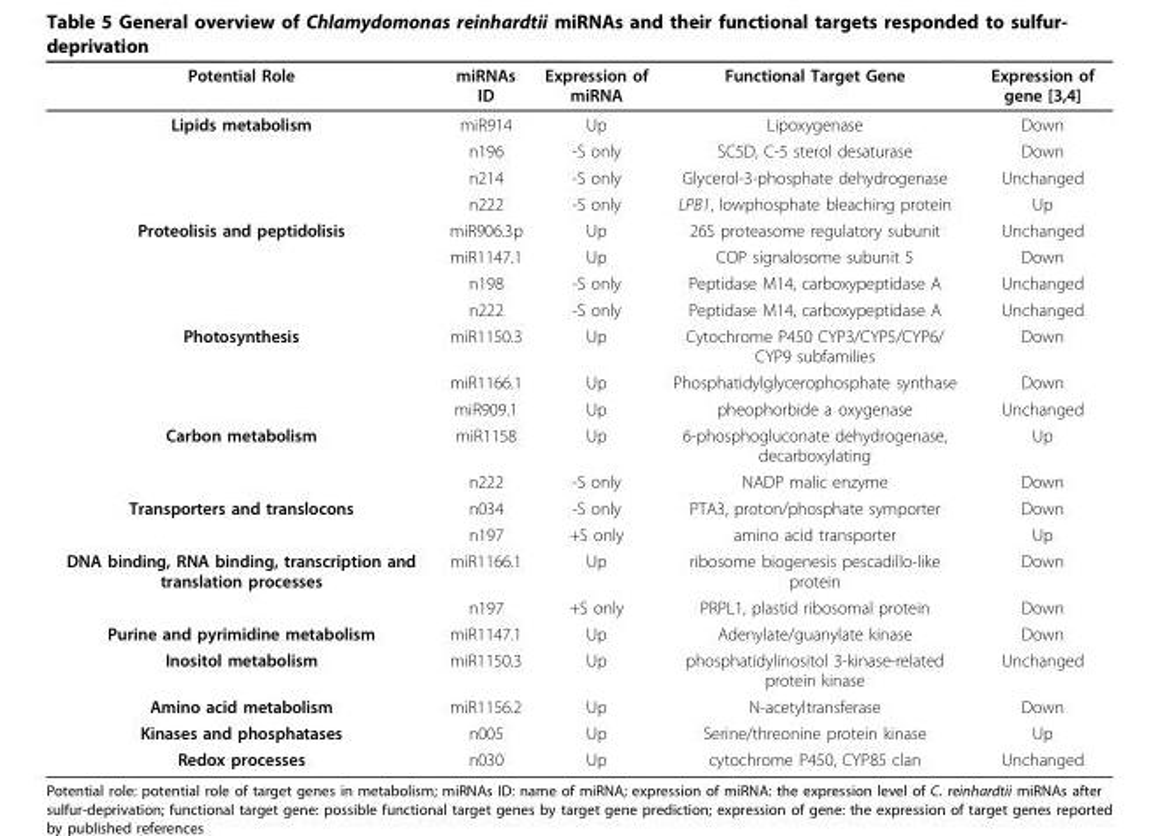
<table><thead><tr><td>Potential Role</td><td>miRNAs ID</td><td>Expression of miRNA</td><td>Functional Target Gene</td><td>Expression of gene [3,4]</td></tr></thead><tbody><tr><td rowspan="4">Lipids metabolism</td><td>miR914</td><td>Up</td><td>Lipoxygenase</td><td>Down</td></tr><tr><td>n196</td><td>-S only</td><td>SC5D, C-5 sterol desaturase</td><td>Down</td></tr><tr><td>n214</td><td>-S only</td><td>Glycerol-3-phosphate dehydrogenase</td><td>Unchanged</td></tr><tr><td>n222</td><td>-S only</td><td>LPB1, lowphosphate bleaching protein</td><td>Up</td></tr><tr><td rowspan="4">Proteolisis and peptidolisis</td><td>miR906.3p</td><td>Up</td><td>26S proteasome regulatory subunit</td><td>Unchanged</td></tr><tr><td>miR1147.1</td><td>Up</td><td>COP signalosome subunit 5</td><td>Down</td></tr><tr><td>n198</td><td>-S only</td><td>Peptidase M14, carboxypeptidase A</td><td>Unchanged</td></tr><tr><td>n222</td><td>-S only</td><td>Peptidase M14, carboxypeptidase A</td><td>Unchanged</td></tr><tr><td rowspan="3">Photosynthesis</td><td>miR1150.3</td><td>Up</td><td>Cytochrome P450 CYP3/CYP5/CYP6/ CYP9 subfamilies</td><td>Down</td></tr><tr><td>miR1166.1</td><td>Up</td><td>Phosphatidylglycerophosphate synthase</td><td>Down</td></tr><tr><td>miR909.1</td><td>Up</td><td>pheophorbide a oxygenase</td><td>Unchanged</td></tr><tr><td rowspan="2">Carbon metabolism</td><td>miR1158</td><td>Up</td><td>6-phosphogluconate dehydrogenase, decarboxylating</td><td>Up</td></tr><tr><td>n222</td><td>-S only</td><td>NADP malic enzyme</td><td>Down</td></tr><tr><td rowspan="2">Transporters and translocons</td><td>n034</td><td>-S only</td><td>PTA3, proton/phosphate symporter</td><td>Down</td></tr><tr><td>n197</td><td>+S only</td><td>amino acid transporter</td><td>Up</td></tr><tr><td rowspan="2">DNA binding, RNA binding, transcription and translation processes</td><td>miR1166.1</td><td>Up</td><td>ribosome biogenesis pescadillo-like protein</td><td>Down</td></tr><tr><td>n197</td><td>+S only</td><td>PRPL1, plastid ribosomal protein</td><td>Down</td></tr><tr><td>Purine and pyrimidine metabolism</td><td>miR1147.1</td><td>Up</td><td>Adenylate/guanylate kinase</td><td>Down</td></tr><tr><td>Inositol metabolism</td><td>miR1150.3</td><td>Up</td><td>phosphatidylinositol 3-kinase-related protein kinase</td><td>Unchanged</td></tr><tr><td>Amino acid metabolism</td><td>miR1156.2</td><td>Up</td><td>N-acetyltransferase</td><td>Down</td></tr><tr><td>Kinases and phosphatases</td><td>n005</td><td>Up</td><td>Serine/threonine protein kinase</td><td>Up</td></tr><tr><td>Redox processes</td><td>n030</td><td>Up</td><td>cytochrome P450, CYP85 clan</td><td>Unchanged</td></tr></tbody></table>